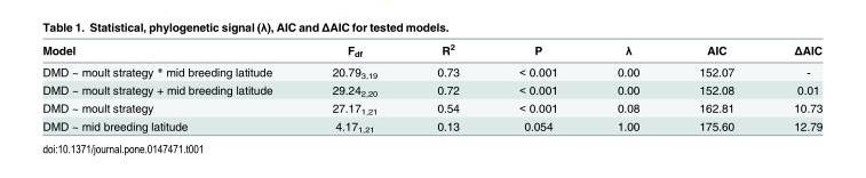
<table><thead><tr><td>Model</td><td>F<sub>df</sub></td><td>R<sup>2</sup></td><td>P</td><td>λ</td><td>AIC</td><td>ΔAIC</td></tr></thead><tbody><tr><td>DMD ~ moult strategy * mid breeding latitude</td><td>20.79<sub>3,19</sub></td><td>0.73</td><td>&lt; 0.001</td><td>0.00</td><td>152.07</td><td>-</td></tr><tr><td>DMD ~ moult strategy + mid breeding latitude</td><td>29.24<sub>2,20</sub></td><td>0.72</td><td>&lt; 0.001</td><td>0.00</td><td>152.08</td><td>0.01</td></tr><tr><td>DMD ~ moult strategy</td><td>27.17<sub>1,21</sub></td><td>0.54</td><td>&lt; 0.001</td><td>0.08</td><td>162.81</td><td>10.73</td></tr><tr><td>DMD ~ mid breeding latitude</td><td>4.17<sub>1,21</sub></td><td>0.13</td><td>0.054</td><td>1.00</td><td>175.60</td><td>12.79</td></tr></tbody></table>